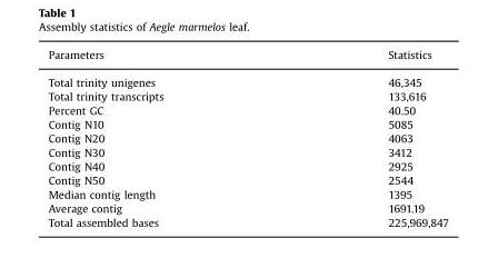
<table><thead><tr><td>Parameters</td><td>Statistics</td></tr></thead><tbody><tr><td>Total trinity unigenes</td><td>46,345</td></tr><tr><td>Total trinity transcripts</td><td>133,616</td></tr><tr><td>Percent GC</td><td>40.50</td></tr><tr><td>Contig N10</td><td>5085</td></tr><tr><td>Contig N20</td><td>4063</td></tr><tr><td>Contig N30</td><td>3412</td></tr><tr><td>Contig N40</td><td>2925</td></tr><tr><td>Contig N50</td><td>2544</td></tr><tr><td>Median contig length</td><td>1395</td></tr><tr><td>Average contig</td><td>1691.19</td></tr><tr><td>Total assembled bases</td><td>225,969,847</td></tr></tbody></table>